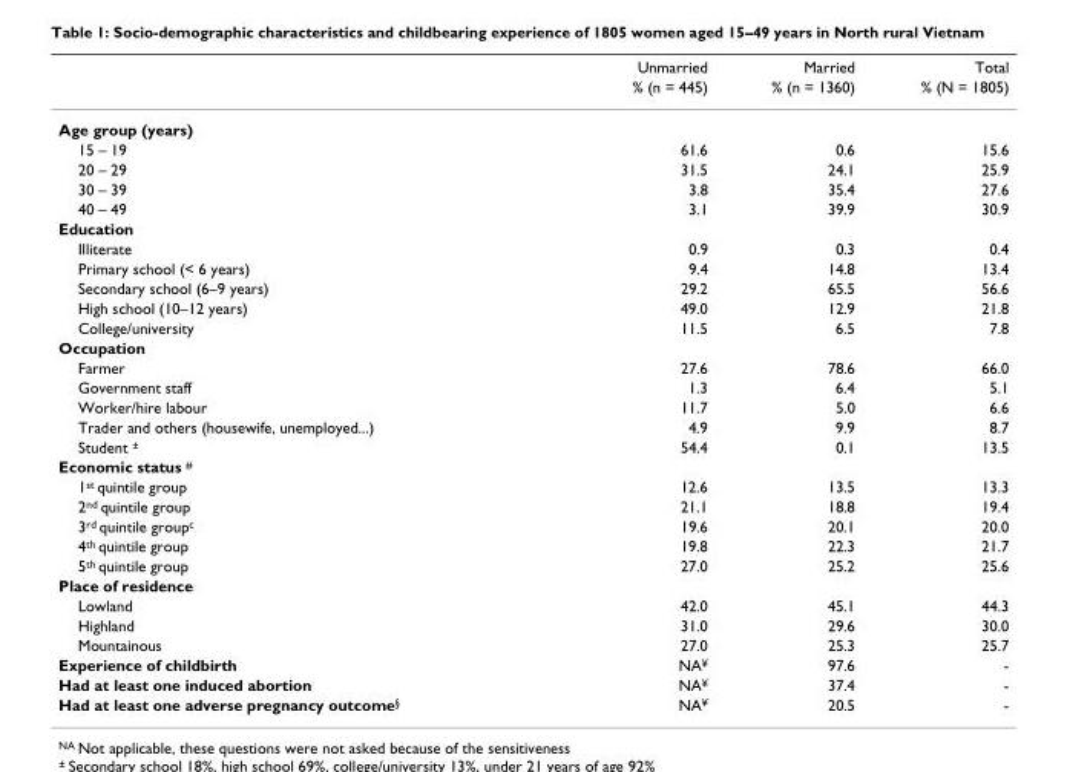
<table><thead><tr><td rowspan="2"></td><td rowspan="2">Unmarried % (n = 445)</td><td rowspan="2">Married % (n = 1360)</td><td rowspan="2">Total % (N = 1805)</td></tr><tr></tr></thead><tbody><tr><td colspan="4">Age group (years)</td></tr><tr><td>15 – 19</td><td>61.6</td><td>0.6</td><td>15.6</td></tr><tr><td>20 – 29</td><td>31.5</td><td>24.1</td><td>25.9</td></tr><tr><td>30 – 39</td><td>3.8</td><td>35.4</td><td>27.6</td></tr><tr><td>40 – 49</td><td>3.1</td><td>39.9</td><td>30.9</td></tr><tr><td colspan="4">Education</td></tr><tr><td>Illiterate</td><td>0.9</td><td>0.3</td><td>0.4</td></tr><tr><td>Primary school (&lt; 6 years)</td><td>9.4</td><td>14.8</td><td>13.4</td></tr><tr><td>Secondary school (6–9 years)</td><td>29.2</td><td>65.5</td><td>56.6</td></tr><tr><td>High school (10–12 years)</td><td>49.0</td><td>12.9</td><td>21.8</td></tr><tr><td>College/university</td><td>11.5</td><td>6.5</td><td>7.8</td></tr><tr><td colspan="4">Occupation</td></tr><tr><td>Farmer</td><td>27.6</td><td>78.6</td><td>66.0</td></tr><tr><td>Government staff</td><td>1.3</td><td>6.4</td><td>5.1</td></tr><tr><td>Worker/hire labour</td><td>11.7</td><td>5.0</td><td>6.6</td></tr><tr><td>Trader and others (housewife, unemployed...)</td><td>4.9</td><td>9.9</td><td>8.7</td></tr><tr><td>Student <sup>±</sup></td><td>54.4</td><td>0.1</td><td>13.5</td></tr><tr><td colspan="4">Economic status <sup>#</sup></td></tr><tr><td>1<sup>st</sup> quintile group</td><td>12.6</td><td>13.5</td><td>13.3</td></tr><tr><td>2<sup>nd</sup> quintile group</td><td>21.1</td><td>18.8</td><td>19.4</td></tr><tr><td>3<sup>rd</sup> quintile group<sup>c</sup></td><td>19.6</td><td>20.1</td><td>20.0</td></tr><tr><td>4<sup>th</sup> quintile group</td><td>19.8</td><td>22.3</td><td>21.7</td></tr><tr><td>5<sup>th</sup> quintile group</td><td>27.0</td><td>25.2</td><td>25.6</td></tr><tr><td colspan="4">Place of residence</td></tr><tr><td>Lowland</td><td>42.0</td><td>45.1</td><td>44.3</td></tr><tr><td>Highland</td><td>31.0</td><td>29.6</td><td>30.0</td></tr><tr><td>Mountainous</td><td>27.0</td><td>25.3</td><td>25.7</td></tr><tr><td>Experience of childbirth</td><td>NA<sup>¥</sup></td><td>97.6</td><td>-</td></tr><tr><td>Had at least one induced abortion</td><td>NA<sup>¥</sup></td><td>37.4</td><td>-</td></tr><tr><td>Had at least one adverse pregnancy outcome<sup>§</sup></td><td>NA<sup>¥</sup></td><td>20.5</td><td>-</td></tr></tbody></table>